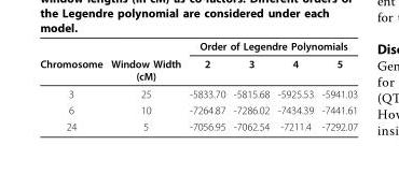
<table><thead><tr><td rowspan="2">Chromosome</td><td rowspan="2">Window Width (cM)</td><td colspan="4">Order of Legendre Polynomials</td></tr><tr><td>2</td><td>3</td><td>4</td><td>5</td></tr></thead><tbody><tr><td>3</td><td>25</td><td>-5833.70</td><td>-5815.68</td><td>-5925.53</td><td>-5941.03</td></tr><tr><td>6</td><td>10</td><td>-7264.87</td><td>-7286.02</td><td>-7434.39</td><td>-7441.61</td></tr><tr><td>24</td><td>5</td><td>-7056.95</td><td>-7062.54</td><td>-7211.4</td><td>-7292.07</td></tr></tbody></table>